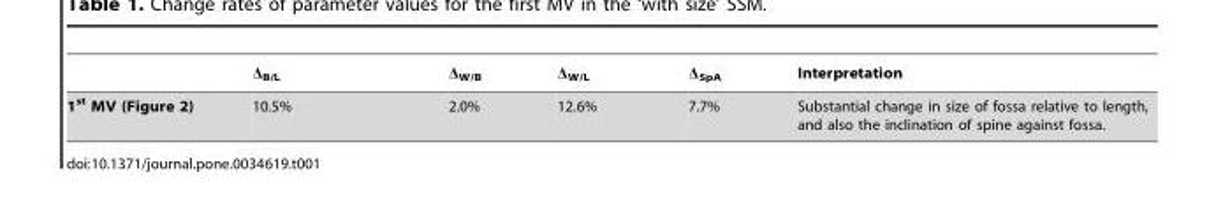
<table><thead><tr><td></td><td>Δ<sub>B/L</sub></td><td>Δ<sub>W/B</sub></td><td>Δ<sub>W/L</sub></td><td>Δ<sub>SpA</sub></td><td>Interpretation</td></tr></thead><tbody><tr><td>1<sup>st</sup> MV (Figure 2)</td><td>10.5%</td><td>2.0%</td><td>12.6%</td><td>7.7%</td><td>Substantial change in size of fossa relative to length, and also the inclination of spine against fossa.</td></tr></tbody></table>